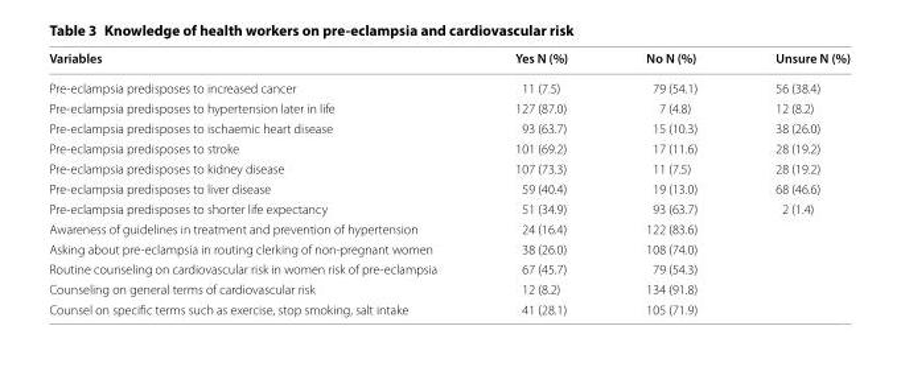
<table><thead><tr><td>Variables</td><td>Yes N (%)</td><td>No N (%)</td><td>Unsure N (%)</td></tr></thead><tbody><tr><td>Pre-eclampsia predisposes to increased cancer</td><td>11 (7.5)</td><td>79 (54.1)</td><td>56 (38.4)</td></tr><tr><td>Pre-eclampsia predisposes to hypertension later in life</td><td>127 (87.0)</td><td>7 (4.8)</td><td>12 (8.2)</td></tr><tr><td>Pre-eclampsia predisposes to ischaemic heart disease</td><td>93 (63.7)</td><td>15 (10.3)</td><td>38 (26.0)</td></tr><tr><td>Pre-eclampsia predisposes to stroke</td><td>101 (69.2)</td><td>17 (11.6)</td><td>28 (19.2)</td></tr><tr><td>Pre-eclampsia predisposes to kidney disease</td><td>107 (73.3)</td><td>11 (7.5)</td><td>28 (19.2)</td></tr><tr><td>Pre-eclampsia predisposes to liver disease</td><td>59 (40.4)</td><td>19 (13.0)</td><td>68 (46.6)</td></tr><tr><td>Pre-eclampsia predisposes to shorter life expectancy</td><td>51 (34.9)</td><td>93 (63.7)</td><td>2 (1.4)</td></tr><tr><td>Awareness of guidelines in treatment and prevention of hypertension</td><td>24 (16.4)</td><td>122 (83.6)</td><td></td></tr><tr><td>Asking about pre-eclampsia in routing clerking of non-pregnant women</td><td>38 (26.0)</td><td>108 (74.0)</td><td></td></tr><tr><td>Routine counseling on cardiovascular risk in women risk of pre-eclampsia</td><td>67 (45.7)</td><td>79 (54.3)</td><td></td></tr><tr><td>Counseling on general terms of cardiovascular risk</td><td>12 (8.2)</td><td>134 (91.8)</td><td></td></tr><tr><td>Counsel on specific terms such as exercise, stop smoking, salt intake</td><td>41 (28.1)</td><td>105 (71.9)</td><td></td></tr></tbody></table>